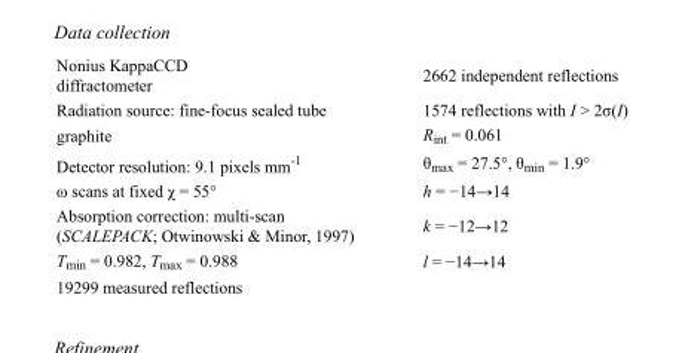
<table><tbody><tr><td>Nonius KappaCCD diffractometer</td><td>2662 independent reflections</td></tr><tr><td>Radiation source: fine-focus sealed tube</td><td>1574 reflections with I &gt; 2σ(I)</td></tr><tr><td>graphite</td><td>R<sub>int</sub> = 0.061</td></tr><tr><td>Detector resolution: 9.1 pixels mm<sup>-1</sup></td><td>θ<sub>max</sub> = 27.5°, θ<sub>min</sub> = 1.9°</td></tr><tr><td>ω scans at fixed χ = 55°</td><td>h = −14→14</td></tr><tr><td>Absorption correction: multi-scan (SCALEPACK; Otwinowski &amp; Minor, 1997)</td><td>k = −12→12</td></tr><tr><td>T<sub>min</sub> = 0.982, T<sub>max</sub> = 0.988</td><td>l = −14→14</td></tr><tr><td>19299 measured reflections</td><td></td></tr></tbody></table>